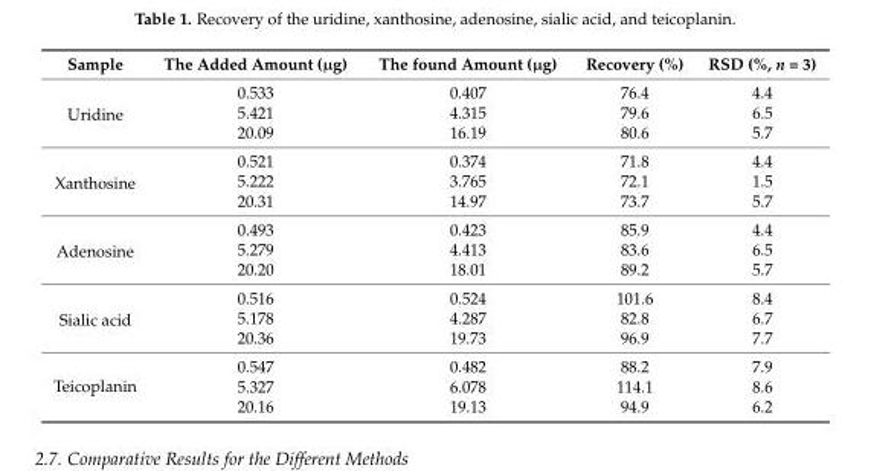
<table><thead><tr><td>Sample</td><td>The Added Amount (µg)</td><td>The found Amount (µg)</td><td>Recovery (%)</td><td>RSD (%, n = 3)</td></tr></thead><tbody><tr><td rowspan="3">Uridine</td><td>0.533</td><td>0.407</td><td>76.4</td><td>4.4</td></tr><tr><td>5.421</td><td>4.315</td><td>79.6</td><td>6.5</td></tr><tr><td>20.09</td><td>16.19</td><td>80.6</td><td>5.7</td></tr><tr><td rowspan="3">Xanthosine</td><td>0.521</td><td>0.374</td><td>71.8</td><td>4.4</td></tr><tr><td>5.222</td><td>3.765</td><td>72.1</td><td>1.5</td></tr><tr><td>20.31</td><td>14.97</td><td>73.7</td><td>5.7</td></tr><tr><td rowspan="3">Adenosine</td><td>0.493</td><td>0.423</td><td>85.9</td><td>4.4</td></tr><tr><td>5.279</td><td>4.413</td><td>83.6</td><td>6.5</td></tr><tr><td>20.20</td><td>18.01</td><td>89.2</td><td>5.7</td></tr><tr><td rowspan="3">Sialic acid</td><td>0.516</td><td>0.524</td><td>101.6</td><td>8.4</td></tr><tr><td>5.178</td><td>4.287</td><td>82.8</td><td>6.7</td></tr><tr><td>20.36</td><td>19.73</td><td>96.9</td><td>7.7</td></tr><tr><td rowspan="3">Teicoplanin</td><td>0.547</td><td>0.482</td><td>88.2</td><td>7.9</td></tr><tr><td>5.327</td><td>6.078</td><td>114.1</td><td>8.6</td></tr><tr><td>20.16</td><td>19.13</td><td>94.9</td><td>6.2</td></tr></tbody></table>